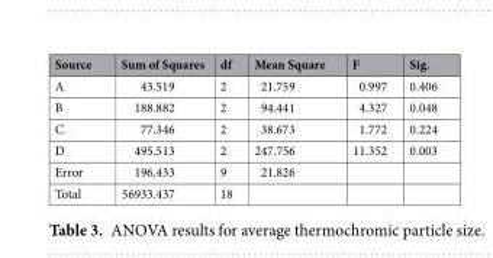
<table><thead><tr><td>Source</td><td>Sum of Squares</td><td>df</td><td>Mean Square</td><td>F</td><td>Sig.</td></tr></thead><tbody><tr><td>A</td><td>43.519</td><td>2</td><td>21.759</td><td>0.997</td><td>0.406</td></tr><tr><td>B</td><td>188.882</td><td>2</td><td>94.441</td><td>4.327</td><td>0.048</td></tr><tr><td>C</td><td>77.346</td><td>2</td><td>38.673</td><td>1.772</td><td>0.224</td></tr><tr><td>D</td><td>495.513</td><td>2</td><td>247.756</td><td>11.352</td><td>0.003</td></tr><tr><td>Error</td><td>196.433</td><td>9</td><td>21.826</td><td></td><td></td></tr><tr><td>Total</td><td>56933.437</td><td>18</td><td></td><td></td><td></td></tr></tbody></table>